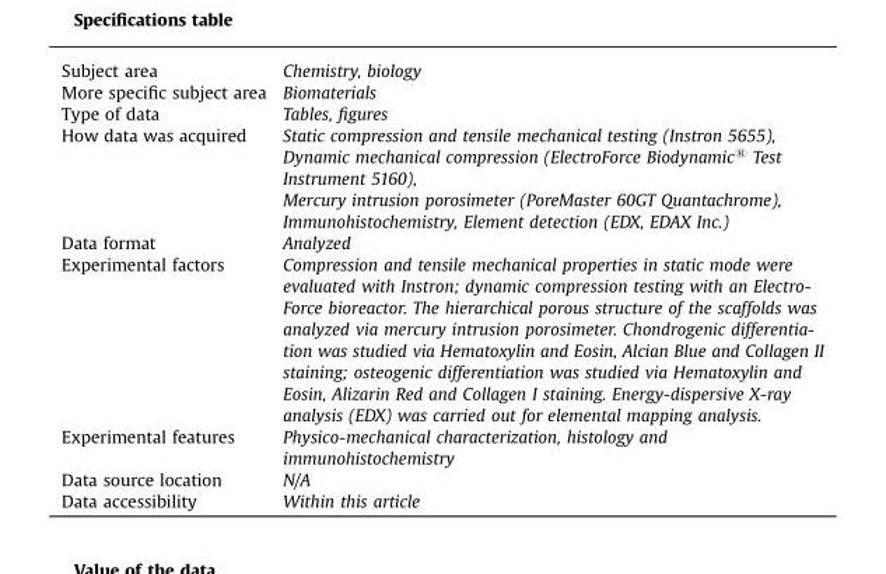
<table><tbody><tr><td>Subject area</td><td>Chemistry, biology</td></tr><tr><td>More specific subject area</td><td>Biomaterials</td></tr><tr><td>Type of data</td><td>Tables, figures</td></tr><tr><td>How data was acquired</td><td>Static compression and tensile mechanical testing (Instron 5655), Dynamic mechanical compression (ElectroForce Biodynamic® Test Instrument 5160), Mercury intrusion porosimeter (PoreMaster 60GT Quantachrome), Immunohistochemistry, Element detection (EDX, EDAX Inc.)</td></tr><tr><td>Data format</td><td>Analyzed</td></tr><tr><td>Experimental factors</td><td>Compression and tensile mechanical properties in static mode were evaluated with Instron; dynamic compression testing with an Electro- Force bioreactor. The hierarchical porous structure of the scaffolds was analyzed via mercury intrusion porosimeter. Chondrogenic differentia- tion was studied via Hematoxylin and Eosin, Alcian Blue and Collagen II staining; osteogenic differentiation was studied via Hematoxylin and Eosin, Alizarin Red and Collagen I staining. Energy-dispersive X-ray analysis (EDX) was carried out for elemental mapping analysis.</td></tr><tr><td>Experimental features</td><td>Physico-mechanical characterization, histology and immunohistochemistry</td></tr><tr><td>Data source location</td><td>N/A</td></tr><tr><td>Data accessibility</td><td>Within this article</td></tr></tbody></table>